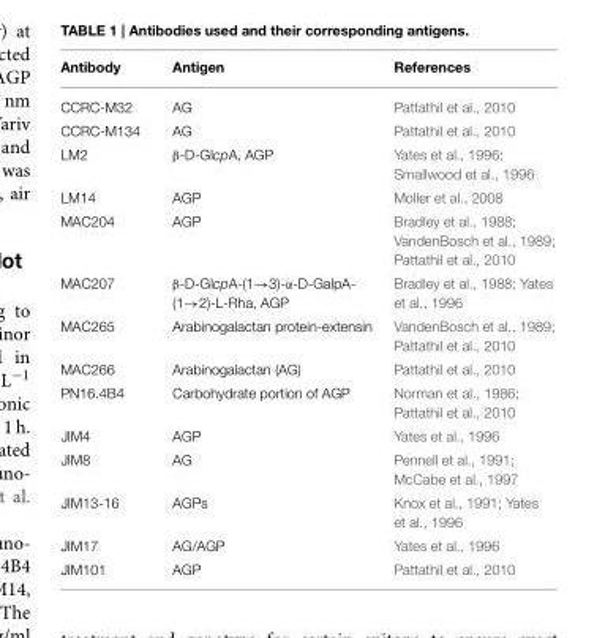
<table><thead><tr><td>Antibody</td><td>Antigen</td><td>References</td></tr></thead><tbody><tr><td>CCRC-M32</td><td>AG</td><td>Pattathil et al., 2010</td></tr><tr><td>CCRC-M134</td><td>AG</td><td>Pattathil et al., 2010</td></tr><tr><td>LM2</td><td>β-D-GlcpA, AGP</td><td>Yates et al., 1996; Smallwood et al., 1996</td></tr><tr><td>LM14</td><td>AGP</td><td>Moller et al., 2008</td></tr><tr><td>MAC204</td><td>AGP</td><td>Bradley et al., 1988; VandenBosch et al., 1989; Pattathil et al., 2010</td></tr><tr><td>MAC207</td><td>β-D-GlcpA-(1→3)-α-D-GalpA- (1→2)-L-Rha, AGP</td><td>Bradley et al., 1988; Yates et al., 1996</td></tr><tr><td>MAC265</td><td>Arabinogalactan protein-extensin</td><td>VandenBosch et al., 1989; Pattathil et al., 2010</td></tr><tr><td>MAC266</td><td>Arabinogalactan (AG)</td><td>Pattathil et al., 2010</td></tr><tr><td>PN16.4B4</td><td>Carbohydrate portion of AGP</td><td>Norman et al., 1986; Pattathil et al., 2010</td></tr><tr><td>JIM4</td><td>AGP</td><td>Yates et al., 1996</td></tr><tr><td>JIM8</td><td>AG</td><td>Pennell et al., 1991; McCabe et al., 1997</td></tr><tr><td>JIM13-16</td><td>AGPs</td><td>Knox et al., 1991; Yates et al., 1996</td></tr><tr><td>JIM17</td><td>AG/AGP</td><td>Yates et al., 1996</td></tr><tr><td>JIM101</td><td>AGP</td><td>Pattathil et al., 2010</td></tr></tbody></table>